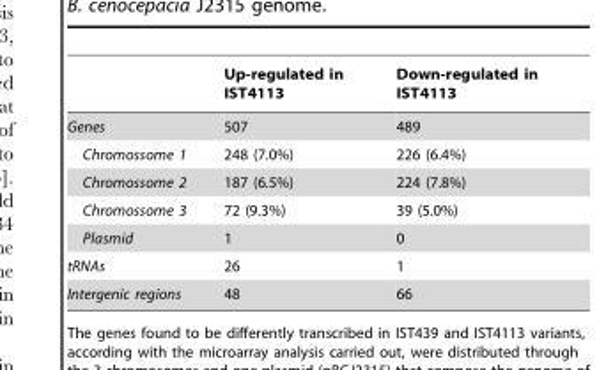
<table><thead><tr><td></td><td>Up-regulated in IST4113</td><td>Down-regulated in IST4113</td></tr></thead><tbody><tr><td>Genes</td><td>507</td><td>489</td></tr><tr><td>Chromossome 1</td><td>248 (7.0%)</td><td>226 (6.4%)</td></tr><tr><td>Chromossome 2</td><td>187 (6.5%)</td><td>224 (7.8%)</td></tr><tr><td>Chromossome 3</td><td>72 (9.3%)</td><td>39 (5.0%)</td></tr><tr><td>Plasmid</td><td>1</td><td>0</td></tr><tr><td>tRNAs</td><td>26</td><td>1</td></tr><tr><td>Intergenic regions</td><td>48</td><td>66</td></tr></tbody></table>